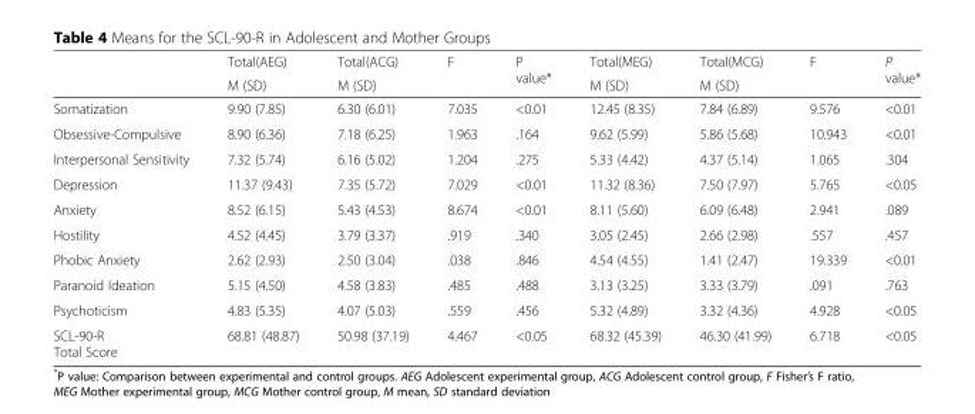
<table><thead><tr><td rowspan="2"></td><td rowspan="2">Total(AEG) M (SD)</td><td rowspan="2">Total(ACG) M (SD)</td><td rowspan="2">F</td><td rowspan="2">P value*</td><td rowspan="2">Total(MEG) M (SD)</td><td rowspan="2">Total(MCG) M (SD)</td><td rowspan="2">F</td><td rowspan="2">P value*</td></tr><tr></tr></thead><tbody><tr><td>Somatization</td><td>9.90 (7.85)</td><td>6.30 (6.01)</td><td>7.035</td><td>&lt;0.01</td><td>12.45 (8.35)</td><td>7.84 (6.89)</td><td>9.576</td><td>&lt;0.01</td></tr><tr><td>Obsessive-Compulsive</td><td>8.90 (6.36)</td><td>7.18 (6.25)</td><td>1.963</td><td>.164</td><td>9.62 (5.99)</td><td>5.86 (5.68)</td><td>10.943</td><td>&lt;0.01</td></tr><tr><td>Interpersonal Sensitivity</td><td>7.32 (5.74)</td><td>6.16 (5.02)</td><td>1.204</td><td>.275</td><td>5.33 (4.42)</td><td>4.37 (5.14)</td><td>1.065</td><td>.304</td></tr><tr><td>Depression</td><td>11.37 (9.43)</td><td>7.35 (5.72)</td><td>7.029</td><td>&lt;0.01</td><td>11.32 (8.36)</td><td>7.50 (7.97)</td><td>5.765</td><td>&lt;0.05</td></tr><tr><td>Anxiety</td><td>8.52 (6.15)</td><td>5.43 (4.53)</td><td>8.674</td><td>&lt;0.01</td><td>8.11 (5.60)</td><td>6.09 (6.48)</td><td>2.941</td><td>.089</td></tr><tr><td>Hostility</td><td>4.52 (4.45)</td><td>3.79 (3.37)</td><td>.919</td><td>.340</td><td>3.05 (2.45)</td><td>2.66 (2.98)</td><td>.557</td><td>.457</td></tr><tr><td>Phobic Anxiety</td><td>2.62 (2.93)</td><td>2.50 (3.04)</td><td>.038</td><td>.846</td><td>4.54 (4.55)</td><td>1.41 (2.47)</td><td>19.339</td><td>&lt;0.01</td></tr><tr><td>Paranoid Ideation</td><td>5.15 (4.50)</td><td>4.58 (3.83)</td><td>.485</td><td>.488</td><td>3.13 (3.25)</td><td>3.33 (3.79)</td><td>.091</td><td>.763</td></tr><tr><td>Psychoticism</td><td>4.83 (5.35)</td><td>4.07 (5.03)</td><td>.559</td><td>.456</td><td>5.32 (4.89)</td><td>3.32 (4.36)</td><td>4.928</td><td>&lt;0.05</td></tr><tr><td>SCL-90-R Total Score</td><td>68.81 (48.87)</td><td>50.98 (37.19)</td><td>4.467</td><td>&lt;0.05</td><td>68.32 (45.39)</td><td>46.30 (41.99)</td><td>6.718</td><td>&lt;0.05</td></tr></tbody></table>